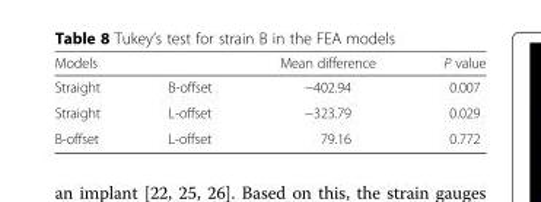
<table><thead><tr><td colspan="2">Models</td><td rowspan="2">Mean difference −402.94</td><td rowspan="2">P value 0.007</td></tr><tr><td>Straight</td><td>B-offset</td></tr></thead><tbody><tr><td>Straight</td><td>L-offset</td><td>−323.79</td><td>0.029</td></tr><tr><td>B-offset</td><td>L-offset</td><td>79.16</td><td>0.772</td></tr></tbody></table>